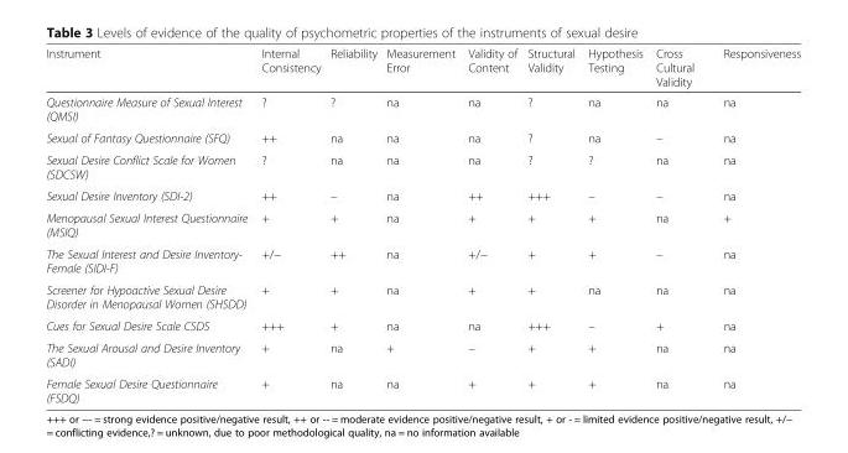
<table><thead><tr><td>Instrument</td><td>Internal Consistency</td><td>Reliability</td><td>Measurement Error</td><td>Validity of Content</td><td>Structural Validity</td><td>Hypothesis Testing</td><td>Cross Cultural Validity</td><td>Responsiveness</td></tr></thead><tbody><tr><td>Questionnaire Measure of Sexual Interest (QMSI)</td><td>?</td><td>?</td><td>na</td><td>na</td><td>?</td><td>na</td><td>na</td><td>na</td></tr><tr><td>Sexual of Fantasy Questionnaire (SFQ)</td><td>++</td><td>na</td><td>na</td><td>na</td><td>?</td><td>na</td><td>–</td><td>na</td></tr><tr><td>Sexual Desire Conflict Scale for Women (SDCSW)</td><td>?</td><td>na</td><td>na</td><td>na</td><td>?</td><td>?</td><td>na</td><td>na</td></tr><tr><td>Sexual Desire Inventory (SDI-2)</td><td>++</td><td>–</td><td>na</td><td>++</td><td>+++</td><td>–</td><td>–</td><td>na</td></tr><tr><td>Menopausal Sexual Interest Questionnaire (MSIQ)</td><td>+</td><td>+</td><td>na</td><td>+</td><td>+</td><td>+</td><td>na</td><td>+</td></tr><tr><td>The Sexual Interest and Desire Inventory- Female (SIDI-F)</td><td>+/−</td><td>++</td><td>na</td><td>+/−</td><td>+</td><td>+</td><td>–</td><td>na</td></tr><tr><td>Screener for Hypoactive Sexual Desire Disorder in Menopausal Women (SHSDD)</td><td>+</td><td>+</td><td>na</td><td>+</td><td>+</td><td>na</td><td>na</td><td>na</td></tr><tr><td>Cues for Sexual Desire Scale CSDS</td><td>+++</td><td>+</td><td>na</td><td>na</td><td>+++</td><td>–</td><td>+</td><td>na</td></tr><tr><td>The Sexual Arousal and Desire Inventory (SADI)</td><td>+</td><td>na</td><td>+</td><td>–</td><td>+</td><td>+</td><td>na</td><td>na</td></tr><tr><td>Female Sexual Desire Questionnaire (FSDQ)</td><td>+</td><td>na</td><td>na</td><td>+</td><td>+</td><td>+</td><td>na</td><td>na</td></tr></tbody></table>